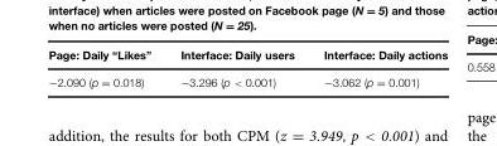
<table><thead><tr><td>Page: Daily “Likes”</td><td>Interface: Daily users</td><td>Interface: Daily actions</td></tr></thead><tbody><tr><td>−2.090 (p = 0.018)</td><td>−3.296 (p &lt; 0.001)</td><td>−3.062 (p = 0.001)</td></tr></tbody></table>